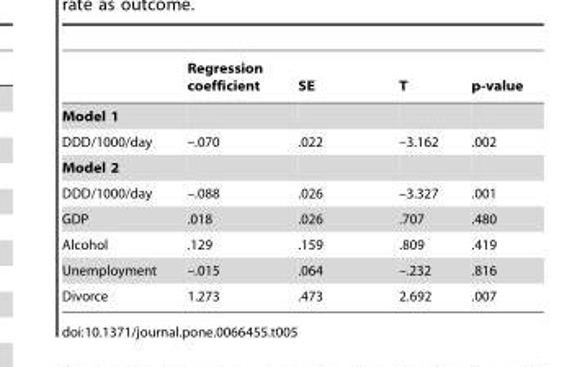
<table><thead><tr><td></td><td>Regression coefficient</td><td>SE</td><td>T</td><td>p-value</td></tr></thead><tbody><tr><td colspan="5">Model 1</td></tr><tr><td>DDD/1000/day</td><td>–.070</td><td>.022</td><td>–3.162</td><td>.002</td></tr><tr><td colspan="5">Model 2</td></tr><tr><td>DDD/1000/day</td><td>–.088</td><td>.026</td><td>–3.327</td><td>.001</td></tr><tr><td>GDP</td><td>.018</td><td>.026</td><td>.707</td><td>.480</td></tr><tr><td>Alcohol</td><td>.129</td><td>.159</td><td>.809</td><td>.419</td></tr><tr><td>Unemployment</td><td>–.015</td><td>.064</td><td>–.232</td><td>.816</td></tr><tr><td>Divorce</td><td>1.273</td><td>.473</td><td>2.692</td><td>.007</td></tr></tbody></table>